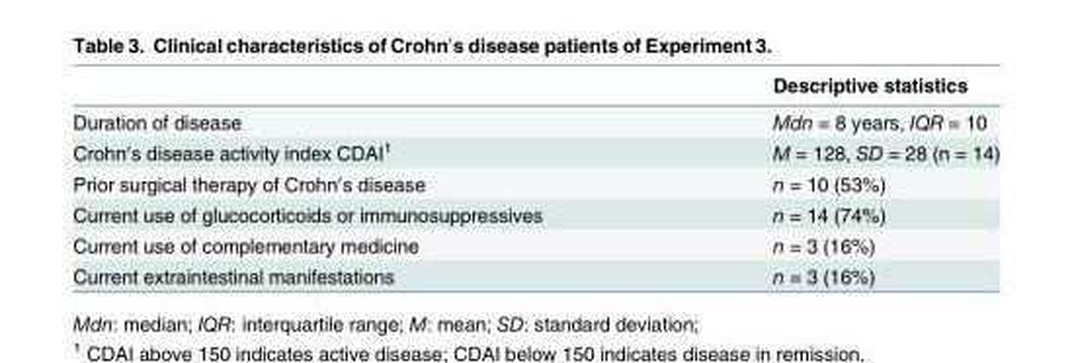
<table><thead><tr><td></td><td>Descriptive statistics</td></tr></thead><tbody><tr><td>Duration of disease</td><td>Mdn = 8 years, IQR = 10</td></tr><tr><td>Crohn′s disease activity index CDAI<sup>1</sup></td><td>M = 128, SD = 28 (n = 14)</td></tr><tr><td>Prior surgical therapy of Crohn′s disease</td><td>n = 10 (53%)</td></tr><tr><td>Current use of glucocorticoids or immunosuppressives</td><td>n = 14 (74%)</td></tr><tr><td>Current use of complementary medicine</td><td>n = 3 (16%)</td></tr><tr><td>Current extraintestinal manifestations</td><td>n = 3 (16%)</td></tr></tbody></table>